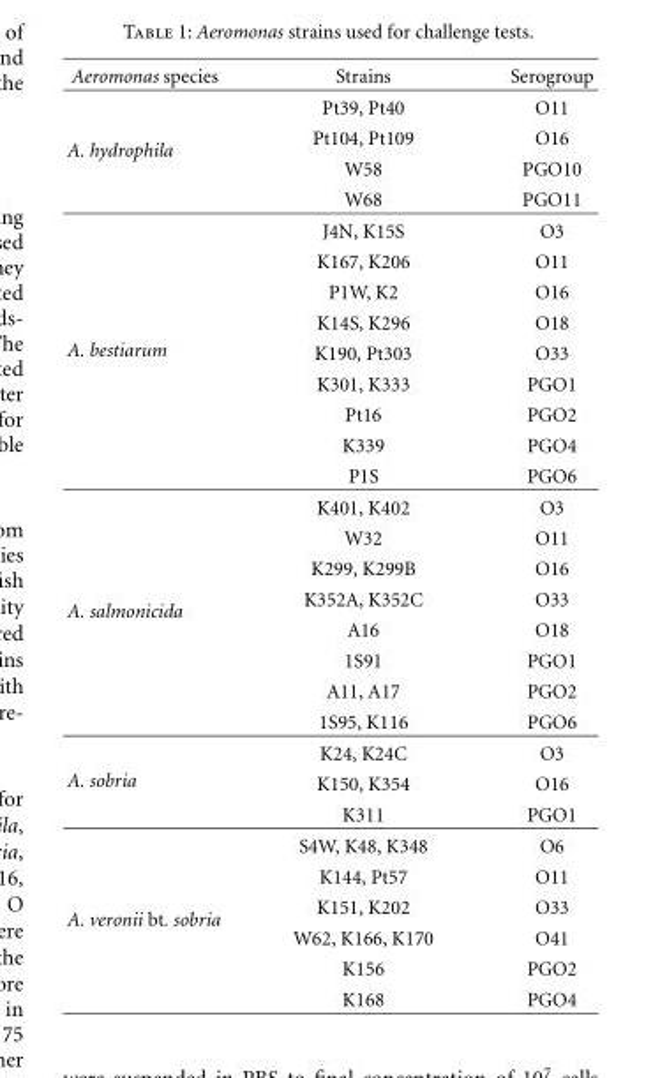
<table><thead><tr><td>Aeromonas species</td><td>Strains</td><td>Serogroup</td></tr></thead><tbody><tr><td rowspan="4">A. hydrophila</td><td>Pt39, Pt40</td><td>O11</td></tr><tr><td>Pt104, Pt109</td><td>O16</td></tr><tr><td>W58</td><td>PGO10</td></tr><tr><td>W68</td><td>PGO11</td></tr><tr><td rowspan="9">A. bestiarum</td><td>J4N, K15S</td><td>O3</td></tr><tr><td>K167, K206</td><td>O11</td></tr><tr><td>P1W, K2</td><td>O16</td></tr><tr><td>K14S, K296</td><td>O18</td></tr><tr><td>K190, Pt303</td><td>O33</td></tr><tr><td>K301, K333</td><td>PGO1</td></tr><tr><td>Pt16</td><td>PGO2</td></tr><tr><td>K339</td><td>PGO4</td></tr><tr><td>P1S</td><td>PGO6</td></tr><tr><td rowspan="8">A. salmonicida</td><td>K401, K402</td><td>O3</td></tr><tr><td>W32</td><td>O11</td></tr><tr><td>K299, K299B</td><td>O16</td></tr><tr><td>K352A, K352C</td><td>O33</td></tr><tr><td>A16</td><td>O18</td></tr><tr><td>1S91</td><td>PGO1</td></tr><tr><td>A11, A17</td><td>PGO2</td></tr><tr><td>1S95, K116</td><td>PGO6</td></tr><tr><td rowspan="3">A. sobria</td><td>K24, K24C</td><td>O3</td></tr><tr><td>K150, K354</td><td>O16</td></tr><tr><td>K311</td><td>PGO1</td></tr><tr><td rowspan="6">A. veronii bt. sobria</td><td>S4W, K48, K348</td><td>O6</td></tr><tr><td>K144, Pt57</td><td>O11</td></tr><tr><td>K151, K202</td><td>O33</td></tr><tr><td>W62, K166, K170</td><td>O41</td></tr><tr><td>K156</td><td>PGO2</td></tr><tr><td>K168</td><td>PGO4</td></tr></tbody></table>